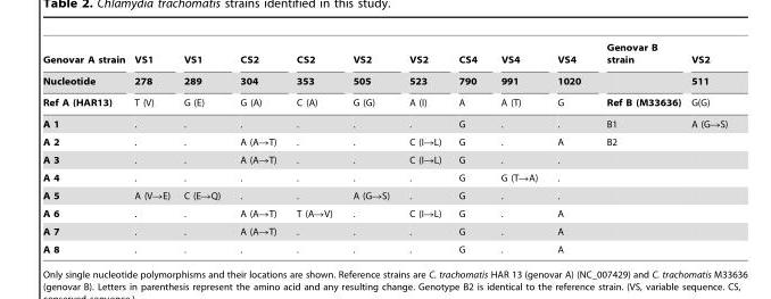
<table><thead><tr><td rowspan="3">Genovar A strain Nucleotide Ref A (HAR13)</td><td rowspan="3">VS1 278 T (V)</td><td rowspan="3">VS1 289 G (E)</td><td rowspan="3">CS2 304 G (A)</td><td rowspan="3">CS2 353 C (A)</td><td rowspan="3">VS2 505 G (G)</td><td rowspan="3">VS2 523 A (I)</td><td rowspan="3">CS4 790 A</td><td rowspan="3">VS4 991 A (T)</td><td rowspan="3">VS4 1020 G</td><td rowspan="3">Genovar B strain Ref B (M33636)</td><td rowspan="3">VS2 511 G(G)</td></tr><tr></tr><tr></tr></thead><tbody><tr><td>A 1</td><td>.</td><td>.</td><td>.</td><td>.</td><td>.</td><td>.</td><td>G</td><td>.</td><td>.</td><td>B1</td><td>A (G→S)</td></tr><tr><td>A 2</td><td>.</td><td>.</td><td>A (A→T)</td><td>.</td><td>.</td><td>C (I→L)</td><td>G</td><td>.</td><td>A</td><td>B2</td><td></td></tr><tr><td>A 3</td><td>.</td><td>.</td><td>A (A→T)</td><td>.</td><td>.</td><td>C (I→L)</td><td>G</td><td>.</td><td>.</td><td></td><td></td></tr><tr><td>A 4</td><td>.</td><td>.</td><td>.</td><td>.</td><td>.</td><td>.</td><td>G</td><td>G (T→A)</td><td>.</td><td></td><td></td></tr><tr><td>A 5</td><td>A (V→E)</td><td>C (E→Q)</td><td>.</td><td>.</td><td>A (G→S)</td><td>.</td><td>G</td><td>.</td><td>.</td><td></td><td></td></tr><tr><td>A 6</td><td>.</td><td>.</td><td>A (A→T)</td><td>T (A→V)</td><td>.</td><td>C (I→L)</td><td>G</td><td>.</td><td>A</td><td></td><td></td></tr><tr><td>A 7</td><td>.</td><td>.</td><td>A (A→T)</td><td>.</td><td>.</td><td>.</td><td>G</td><td>.</td><td>A</td><td></td><td></td></tr><tr><td>A 8</td><td>.</td><td>.</td><td>.</td><td>.</td><td>.</td><td>.</td><td>G</td><td>.</td><td>A</td><td></td><td></td></tr></tbody></table>